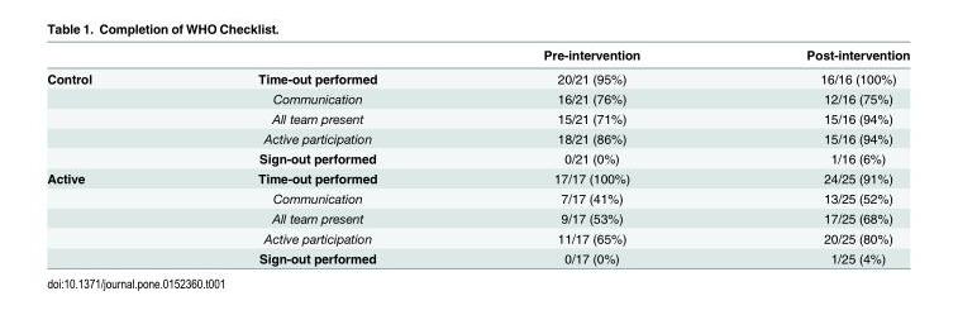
<table><thead><tr><td></td><td></td><td>Pre-intervention</td><td>Post-intervention</td></tr></thead><tbody><tr><td rowspan="5">Control</td><td>Time-out performed</td><td>20/21 (95%)</td><td>16/16 (100%)</td></tr><tr><td>Communication</td><td>16/21 (76%)</td><td>12/16 (75%)</td></tr><tr><td>All team present</td><td>15/21 (71%)</td><td>15/16 (94%)</td></tr><tr><td>Active participation</td><td>18/21 (86%)</td><td>15/16 (94%)</td></tr><tr><td>Sign-out performed</td><td>0/21 (0%)</td><td>1/16 (6%)</td></tr><tr><td rowspan="5">Active</td><td>Time-out performed</td><td>17/17 (100%)</td><td>24/25 (91%)</td></tr><tr><td>Communication</td><td>7/17 (41%)</td><td>13/25 (52%)</td></tr><tr><td>All team present</td><td>9/17 (53%)</td><td>17/25 (68%)</td></tr><tr><td>Active participation</td><td>11/17 (65%)</td><td>20/25 (80%)</td></tr><tr><td>Sign-out performed</td><td>0/17 (0%)</td><td>1/25 (4%)</td></tr></tbody></table>